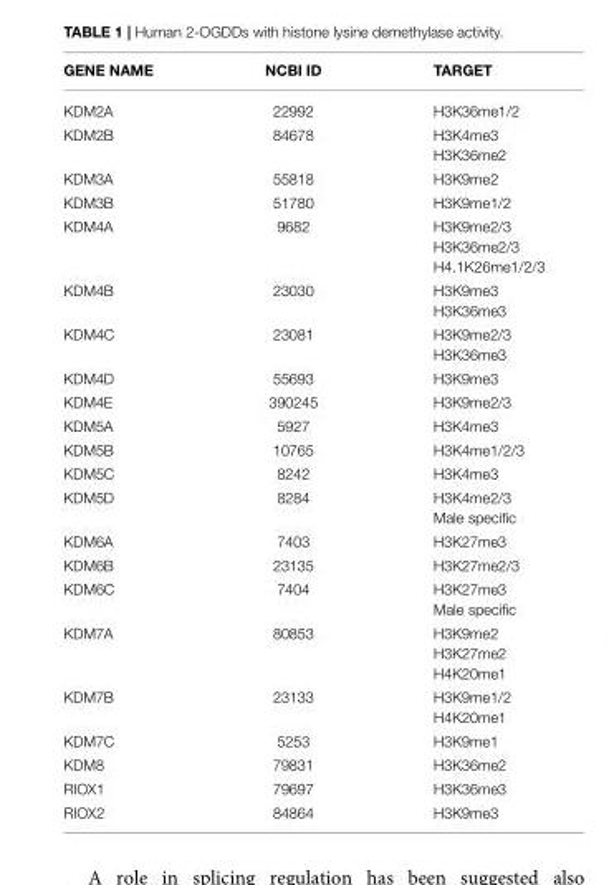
<table><thead><tr><td>GENE NAME</td><td>NCBI ID</td><td>TARGET</td></tr></thead><tbody><tr><td>KDM2A</td><td>22992</td><td>H3K36me1/2</td></tr><tr><td>KDM2B</td><td>84678</td><td>H3K4me3 H3K36me2</td></tr><tr><td>KDM3A</td><td>55818</td><td>H3K9me2</td></tr><tr><td>KDM3B</td><td>51780</td><td>H3K9me1/2</td></tr><tr><td>KDM4A</td><td>9682</td><td>H3K9me2/3 H3K36me2/3 H4.1K26me1/2/3</td></tr><tr><td>KDM4B</td><td>23030</td><td>H3K9me3 H3K36me3</td></tr><tr><td>KDM4C</td><td>23081</td><td>H3K9me2/3 H3K36me3</td></tr><tr><td>KDM4D</td><td>55693</td><td>H3K9me3</td></tr><tr><td>KDM4E</td><td>390245</td><td>H3K9me2/3</td></tr><tr><td>KDM5A</td><td>5927</td><td>H3K4me3</td></tr><tr><td>KDM5B</td><td>10765</td><td>H3K4me1/2/3</td></tr><tr><td>KDM5C</td><td>8242</td><td>H3K4me3</td></tr><tr><td>KDM5D</td><td>8284</td><td>H3K4me2/3 Male specific</td></tr><tr><td>KDM6A</td><td>7403</td><td>H3K27me3</td></tr><tr><td>KDM6B</td><td>23135</td><td>H3K27me2/3</td></tr><tr><td>KDM6C</td><td>7404</td><td>H3K27me3 Male specific</td></tr><tr><td>KDM7A</td><td>80853</td><td>H3K9me2 H3K27me2 H4K20me1</td></tr><tr><td>KDM7B</td><td>23133</td><td>H3K9me1/2 H4K20me1</td></tr><tr><td>KDM7C</td><td>5253</td><td>H3K9me1</td></tr><tr><td>KDM8</td><td>79831</td><td>H3K36me2</td></tr><tr><td>RIOX1</td><td>79697</td><td>H3K36me3</td></tr><tr><td>RIOX2</td><td>84864</td><td>H3K9me3</td></tr></tbody></table>